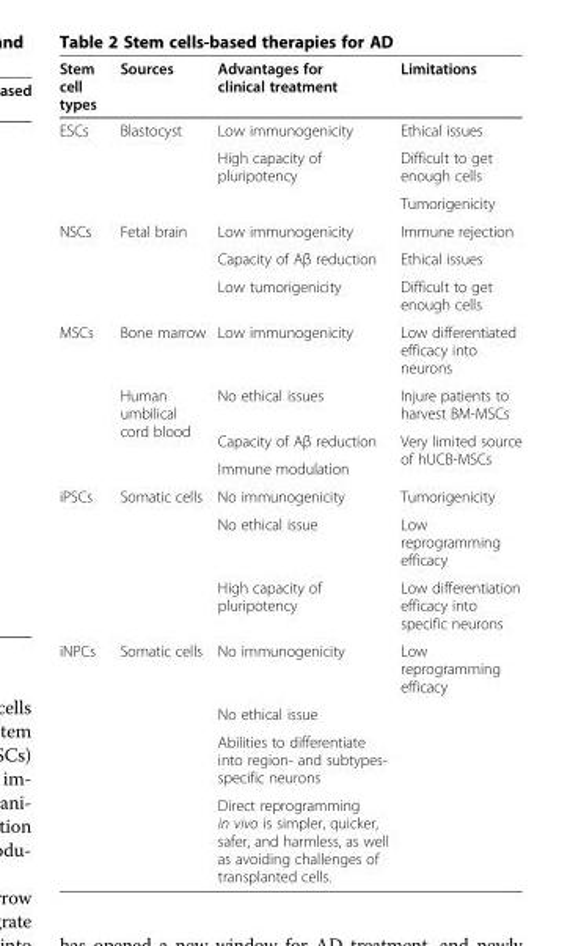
<table><thead><tr><td>Stem cell types</td><td>Sources</td><td>Advantages for clinical treatment</td><td>Limitations</td></tr></thead><tbody><tr><td rowspan="3">ESCs</td><td rowspan="3">Blastocyst</td><td>Low immunogenicity</td><td>Ethical issues</td></tr><tr><td rowspan="2">High capacity of pluripotency</td><td>Difficult to get enough cells</td></tr><tr><td>Tumorigenicity</td></tr><tr><td rowspan="3">NSCs</td><td rowspan="3">Fetal brain</td><td>Low immunogenicity</td><td>Immune rejection</td></tr><tr><td>Capacity of Aβ reduction</td><td>Ethical issues</td></tr><tr><td>Low tumorigenicity</td><td>Difficult to get enough cells</td></tr><tr><td rowspan="4">MSCs</td><td>Bone marrow</td><td>Low immunogenicity</td><td>Low differentiated efficacy into neurons</td></tr><tr><td rowspan="3">Human umbilical cord blood</td><td>No ethical issues</td><td>Injure patients to harvest BM-MSCs</td></tr><tr><td>Capacity of Aβ reduction</td><td rowspan="2">Very limited source of hUCB-MSCs</td></tr><tr><td>Immune modulation</td></tr><tr><td rowspan="3">iPSCs</td><td rowspan="3">Somatic cells</td><td>No immunogenicity</td><td>Tumorigenicity</td></tr><tr><td>No ethical issue</td><td>Low reprogramming efficacy</td></tr><tr><td>High capacity of pluripotency</td><td>Low differentiation efficacy into specific neurons</td></tr><tr><td rowspan="4">iNPCs</td><td rowspan="4">Somatic cells</td><td>No immunogenicity</td><td>Low reprogramming efficacy</td></tr><tr><td>No ethical issue</td><td rowspan="3"></td></tr><tr><td>Abilities to differentiate into region- and subtypes- specific neurons</td></tr><tr><td>Direct reprogramming in vivo is simpler, quicker, safer, and harmless, as well as avoiding challenges of transplanted cells.</td></tr></tbody></table>